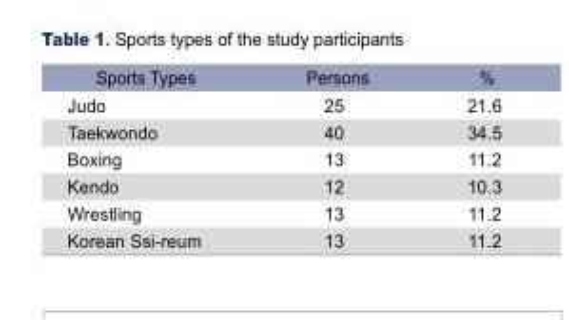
<table><thead><tr><td>Sports Types</td><td>Persons</td><td>%</td></tr></thead><tbody><tr><td>Judo</td><td>25</td><td>21.6</td></tr><tr><td>Taekwondo</td><td>40</td><td>34.5</td></tr><tr><td>Boxing</td><td>13</td><td>11.2</td></tr><tr><td>Kendo</td><td>12</td><td>10.3</td></tr><tr><td>Wrestling</td><td>13</td><td>11.2</td></tr><tr><td>Korean Ssi-reum</td><td>13</td><td>11.2</td></tr></tbody></table>